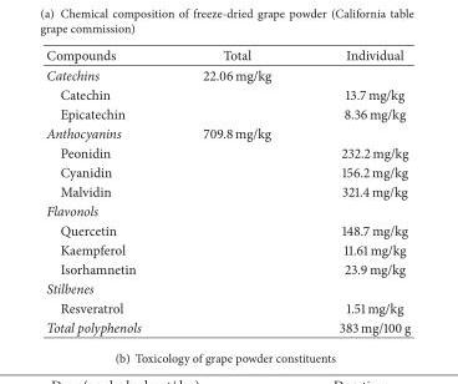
<table><thead><tr><td>Compounds</td><td>Total</td><td>Individual</td></tr></thead><tbody><tr><td>Catechins</td><td>22.06 mg/kg</td><td></td></tr><tr><td>Catechin</td><td></td><td>13.7 mg/kg</td></tr><tr><td>Epicatechin</td><td></td><td>8.36 mg/kg</td></tr><tr><td>Anthocyanins</td><td>709.8 mg/kg</td><td></td></tr><tr><td>Peonidin</td><td></td><td>232.2 mg/kg</td></tr><tr><td>Cyanidin</td><td></td><td>156.2 mg/kg</td></tr><tr><td>Malvidin</td><td></td><td>321.4 mg/kg</td></tr><tr><td colspan="3">Flavonols</td></tr><tr><td>Quercetin</td><td></td><td>148.7 mg/kg</td></tr><tr><td>Kaempferol</td><td></td><td>11.61 mg/kg</td></tr><tr><td>Isorhamnetin</td><td></td><td>23.9 mg/kg</td></tr><tr><td colspan="3">Stilbenes</td></tr><tr><td>Resveratrol</td><td></td><td>1.51 mg/kg</td></tr><tr><td>Total polyphenols</td><td></td><td>383 mg/100 g</td></tr></tbody></table>